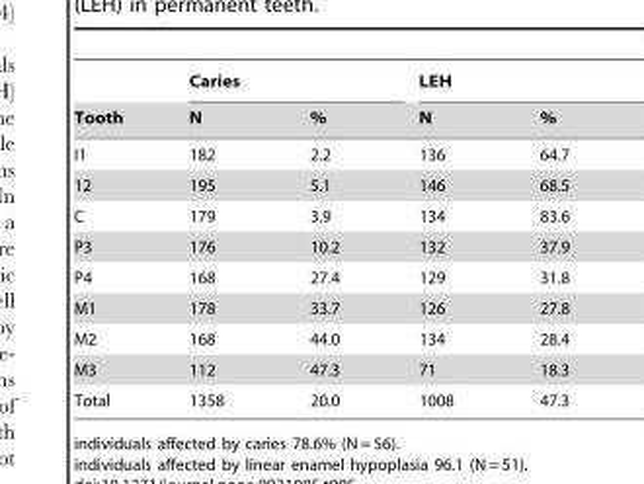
<table><thead><tr><td rowspan="2">Tooth</td><td colspan="2">Caries</td><td colspan="2">LEH</td></tr><tr><td>N</td><td>%</td><td>N</td><td>%</td></tr></thead><tbody><tr><td>I1</td><td>182</td><td>2.2</td><td>136</td><td>64.7</td></tr><tr><td>12</td><td>195</td><td>5.1</td><td>146</td><td>68.5</td></tr><tr><td>C</td><td>179</td><td>3.9</td><td>134</td><td>83.6</td></tr><tr><td>P3</td><td>176</td><td>10.2</td><td>132</td><td>37.9</td></tr><tr><td>P4</td><td>168</td><td>27.4</td><td>129</td><td>31.8</td></tr><tr><td>M1</td><td>178</td><td>33.7</td><td>126</td><td>27.8</td></tr><tr><td>M2</td><td>168</td><td>44.0</td><td>134</td><td>28.4</td></tr><tr><td>M3</td><td>112</td><td>47.3</td><td>71</td><td>18.3</td></tr><tr><td>Total</td><td>1358</td><td>20.0</td><td>1008</td><td>47.3</td></tr></tbody></table>